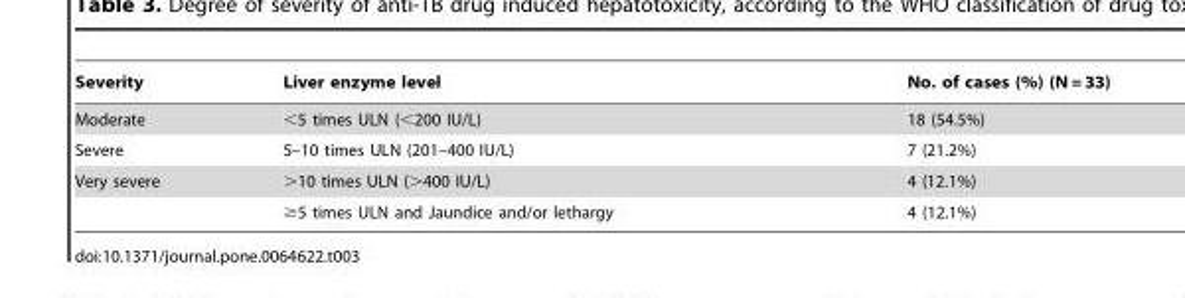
<table><thead><tr><td>Severity</td><td>Liver enzyme level</td><td>No. of cases (%) (N = 33)</td></tr></thead><tbody><tr><td>Moderate</td><td>&lt;5 times ULN (&lt;200 IU/L)</td><td>18 (54.5%)</td></tr><tr><td>Severe</td><td>5–10 times ULN (201–400 IU/L)</td><td>7 (21.2%)</td></tr><tr><td rowspan="2">Very severe</td><td>&gt;10 times ULN (&gt;400 IU/L)</td><td>4 (12.1%)</td></tr><tr><td>≥5 times ULN and Jaundice and/or lethargy</td><td>4 (12.1%)</td></tr></tbody></table>